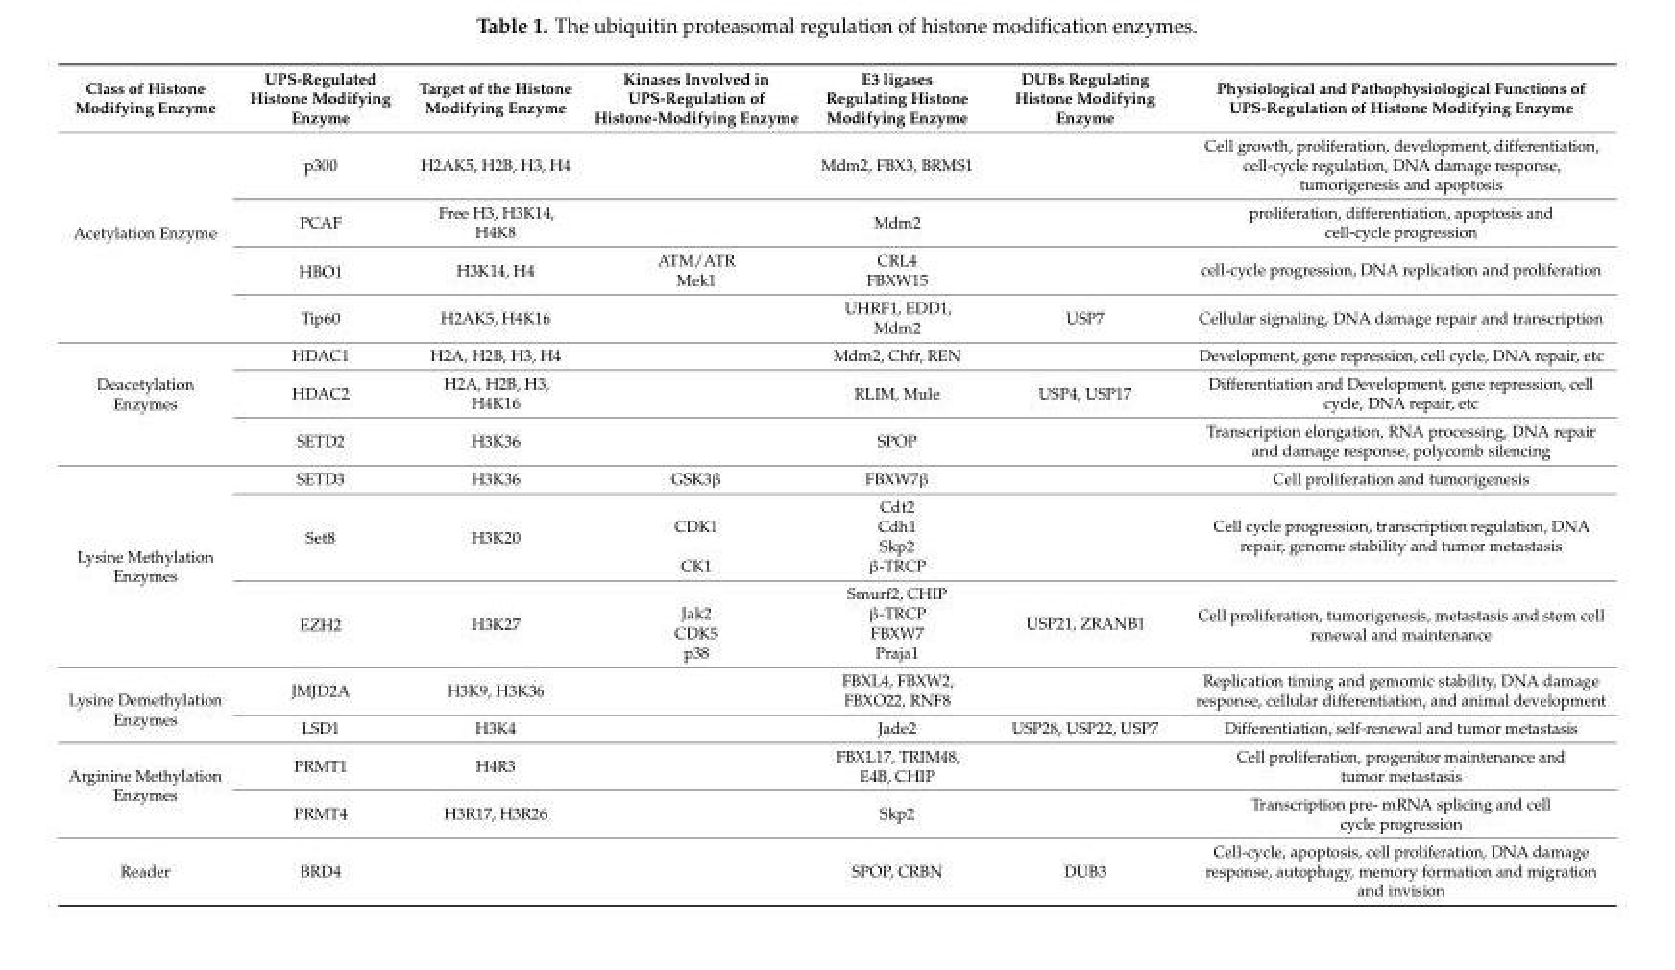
<table><thead><tr><td>Class of Histone Modifying Enzyme</td><td>UPS-Regulated Histone Modifying Enzyme</td><td>Target of the Histone Modifying Enzyme</td><td>Kinases Involved in UPS-Regulation of Histone-Modifying Enzyme</td><td>E3 ligases Regulating Histone Modifying Enzyme</td><td>DUBs Regulating Histone Modifying Enzyme</td><td>Physiological and Pathophysiological Functions of UPS-Regulation of Histone Modifying Enzyme</td></tr></thead><tbody><tr><td rowspan="5">Acetylation Enzyme</td><td>p300</td><td>H2AK5, H2B, H3, H4</td><td></td><td>Mdm2, FBX3, BRMS1</td><td></td><td>Cell growth, proliferation, development, differentiation, cell-cycle regulation, DNA damage response, tumorigenesis and apoptosis</td></tr><tr><td>PCAF</td><td>Free H3, H3K14, H4K8</td><td></td><td>Mdm2</td><td></td><td>proliferation, differentiation, apoptosis and cell-cycle progression</td></tr><tr><td rowspan="2">HBO1</td><td rowspan="2">H3K14, H4</td><td>ATM/ATR</td><td>CRL4</td><td rowspan="2"></td><td rowspan="2">cell-cycle progression, DNA replication and proliferation</td></tr><tr><td>Mek1</td><td>FBXW15</td></tr><tr><td>Tip60</td><td>H2AK5, H4K16</td><td></td><td>UHRF1, EDD1, Mdm2</td><td>USP7</td><td>Cellular signaling, DNA damage repair and transcription</td></tr><tr><td rowspan="3">Deacetylation Enzymes</td><td>HDAC1</td><td>H2A, H2B, H3, H4</td><td></td><td>Mdm2, Chfr, REN</td><td></td><td>Development, gene repression, cell cycle, DNA repair, etc</td></tr><tr><td>HDAC2</td><td>H2A, H2B, H3, H4K16</td><td></td><td>RLIM, Mule</td><td>USP4, USP17</td><td>Differentiation and Development, gene repression, cell cycle, DNA repair, etc</td></tr><tr><td>SETD2</td><td>H3K36</td><td></td><td>SPOP</td><td></td><td>Transcription elongation, RNA processing, DNA repair and damage response, polycomb silencing</td></tr><tr><td rowspan="9">Lysine Methylation Enzymes</td><td>SETD3</td><td>H3K36</td><td>GSK3β</td><td>FBXW7β</td><td></td><td>Cell proliferation and tumorigenesis</td></tr><tr><td rowspan="4">Set8</td><td rowspan="4">H3K20</td><td></td><td>Cdt2</td><td rowspan="4"></td><td rowspan="4">Cell cycle progression, transcription regulation, DNA repair, genome stability and tumor metastasis</td></tr><tr><td>CDK1</td><td>Cdh1</td></tr><tr><td></td><td>Skp2</td></tr><tr><td>CK1</td><td>β-TRCP</td></tr><tr><td rowspan="4">EZH2</td><td rowspan="4">H3K27</td><td></td><td>Smurf2, CHIP</td><td rowspan="4">USP21, ZRANB1</td><td rowspan="4">Cell proliferation, tumorigenesis, metastasis and stem cell renewal and maintenance</td></tr><tr><td>Jak2</td><td>β-TRCP</td></tr><tr><td>CDK5</td><td>FBXW7</td></tr><tr><td>p38</td><td>Praja1</td></tr><tr><td rowspan="2">Lysine Demethylation Enzymes</td><td>JMJD2A</td><td>H3K9, H3K36</td><td></td><td>FBXL4, FBXW2, FBXO22, RNF8</td><td></td><td>Replication timing and gemomic stability, DNA damage response, cellular differentiation, and animal development</td></tr><tr><td>LSD1</td><td>H3K4</td><td></td><td>Jade2</td><td>USP28, USP22, USP7</td><td>Differentiation, self-renewal and tumor metastasis</td></tr><tr><td rowspan="2">Arginine Methylation Enzymes</td><td>PRMT1</td><td>H4R3</td><td></td><td>FBXL17, TRIM48, E4B, CHIP</td><td></td><td>Cell proliferation, progenitor maintenance and tumor metastasis</td></tr><tr><td>PRMT4</td><td>H3R17, H3R26</td><td></td><td>Skp2</td><td></td><td>Transcription pre- mRNA splicing and cell cycle progression</td></tr><tr><td>Reader</td><td>BRD4</td><td></td><td></td><td>SPOP, CRBN</td><td>DUB3</td><td>Cell-cycle, apoptosis, cell proliferation, DNA damage response, autophagy, memory formation and migration and invision</td></tr></tbody></table>